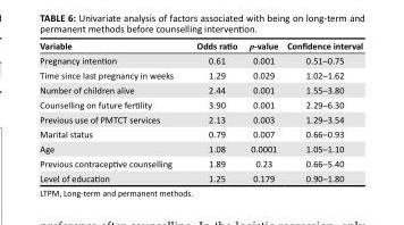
<table><thead><tr><td>Variable</td><td>Odds ratio</td><td>p-value</td><td>Confidence interval</td></tr></thead><tbody><tr><td>Pregnancy intention</td><td>0.61</td><td>0.001</td><td>0.51–0.75</td></tr><tr><td>Time since last pregnancy in weeks</td><td>1.29</td><td>0.029</td><td>1.02–1.62</td></tr><tr><td>Number of children alive</td><td>2.44</td><td>0.001</td><td>1.55–3.80</td></tr><tr><td>Counselling on future fertility</td><td>3.90</td><td>0.001</td><td>2.29–6.30</td></tr><tr><td>Previous use of PMTCT services</td><td>2.13</td><td>0.003</td><td>1.29–3.54</td></tr><tr><td>Marital status</td><td>0.79</td><td>0.007</td><td>0.66–0.93</td></tr><tr><td>Age</td><td>1.08</td><td>0.0001</td><td>1.05–1.10</td></tr><tr><td>Previous contraceptive counselling</td><td>1.89</td><td>0.23</td><td>0.66–5.40</td></tr><tr><td>Level of education</td><td>1.25</td><td>0.179</td><td>0.90–1.80</td></tr></tbody></table>